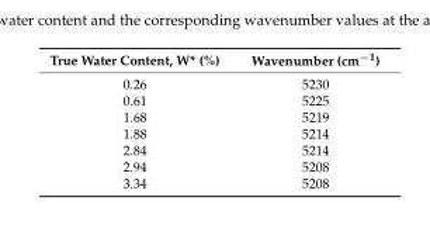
<table><thead><tr><td>True Water Content, W* (%)</td><td>Wavenumber (cm<sup>−1</sup>)</td></tr></thead><tbody><tr><td>0.26</td><td>5230</td></tr><tr><td>0.61</td><td>5225</td></tr><tr><td>1.68</td><td>5219</td></tr><tr><td>1.88</td><td>5214</td></tr><tr><td>2.84</td><td>5214</td></tr><tr><td>2.94</td><td>5208</td></tr><tr><td>3.34</td><td>5208</td></tr></tbody></table>